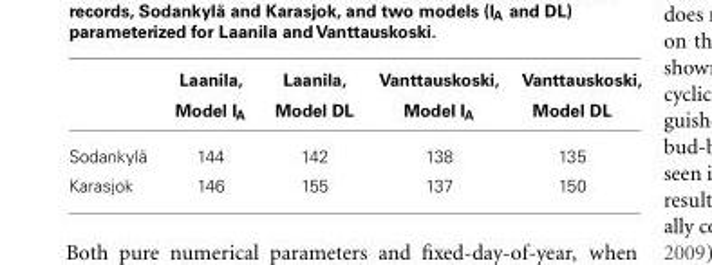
<table><thead><tr><td></td><td>Laanila, Model IA</td><td>Laanila, Model DL</td><td>Vanttauskoski, Model IA</td><td>Vanttauskoski, Model DL</td></tr></thead><tbody><tr><td>Sodankylä</td><td>144</td><td>142</td><td>138</td><td>135</td></tr><tr><td>Karasjok</td><td>146</td><td>155</td><td>137</td><td>150</td></tr></tbody></table>